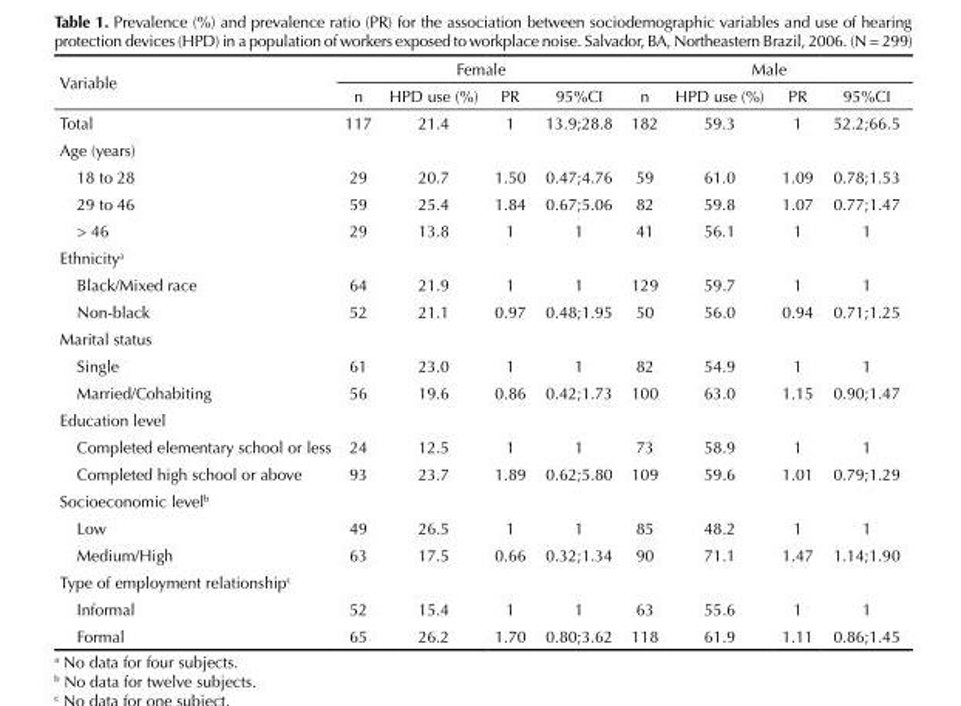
<table><thead><tr><td rowspan="2">Variable</td><td colspan="4">Female</td><td colspan="4">Male</td></tr><tr><td>n</td><td>HPD use (%)</td><td>PR</td><td>95%CI</td><td>n</td><td>HPD use (%)</td><td>PR</td><td>95%CI</td></tr></thead><tbody><tr><td>Total</td><td>117</td><td>21.4</td><td>1</td><td>13.9;28.8</td><td>182</td><td>59.3</td><td>1</td><td>52.2;66.5</td></tr><tr><td colspan="9">Age (years)</td></tr><tr><td>18 to 28</td><td>29</td><td>20.7</td><td>1.50</td><td>0.47;4.76</td><td>59</td><td>61.0</td><td>1.09</td><td>0.78;1.53</td></tr><tr><td>29 to 46</td><td>59</td><td>25.4</td><td>1.84</td><td>0.67;5.06</td><td>82</td><td>59.8</td><td>1.07</td><td>0.77;1.47</td></tr><tr><td>&gt; 46</td><td>29</td><td>13.8</td><td>1</td><td>1</td><td>41</td><td>56.1</td><td>1</td><td>1</td></tr><tr><td colspan="9">Ethnicity<sup>a</sup></td></tr><tr><td>Black/Mixed race</td><td>64</td><td>21.9</td><td>1</td><td>1</td><td>129</td><td>59.7</td><td>1</td><td>1</td></tr><tr><td>Non-black</td><td>52</td><td>21.1</td><td>0.97</td><td>0.48;1.95</td><td>50</td><td>56.0</td><td>0.94</td><td>0.71;1.25</td></tr><tr><td colspan="9">Marital status</td></tr><tr><td>Single</td><td>61</td><td>23.0</td><td>1</td><td>1</td><td>82</td><td>54.9</td><td>1</td><td>1</td></tr><tr><td>Married/Cohabiting</td><td>56</td><td>19.6</td><td>0.86</td><td>0.42;1.73</td><td>100</td><td>63.0</td><td>1.15</td><td>0.90;1.47</td></tr><tr><td colspan="9">Education level</td></tr><tr><td>Completed elementary school or less</td><td>24</td><td>12.5</td><td>1</td><td>1</td><td>73</td><td>58.9</td><td>1</td><td>1</td></tr><tr><td>Completed high school or above</td><td>93</td><td>23.7</td><td>1.89</td><td>0.62;5.80</td><td>109</td><td>59.6</td><td>1.01</td><td>0.79;1.29</td></tr><tr><td colspan="9">Socioeconomic level<sup>b</sup></td></tr><tr><td>Low</td><td>49</td><td>26.5</td><td>1</td><td>1</td><td>85</td><td>48.2</td><td>1</td><td>1</td></tr><tr><td>Medium/High</td><td>63</td><td>17.5</td><td>0.66</td><td>0.32;1.34</td><td>90</td><td>71.1</td><td>1.47</td><td>1.14;1.90</td></tr><tr><td colspan="9">Type of employment relationship<sup>c</sup></td></tr><tr><td>Informal</td><td>52</td><td>15.4</td><td>1</td><td>1</td><td>63</td><td>55.6</td><td>1</td><td>1</td></tr><tr><td>Formal</td><td>65</td><td>26.2</td><td>1.70</td><td>0.80;3.62</td><td>118</td><td>61.9</td><td>1.11</td><td>0.86;1.45</td></tr></tbody></table>